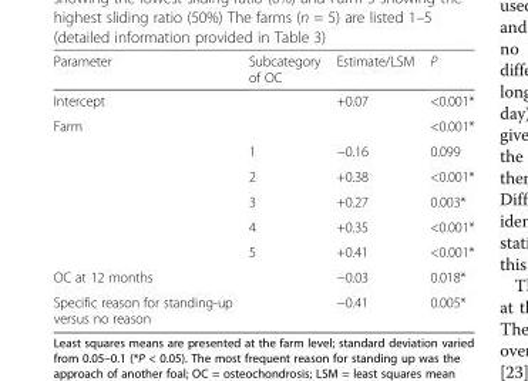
<table><thead><tr><td>Parameter</td><td>Subcategory of OC</td><td>Estimate/LSM</td><td>P</td></tr></thead><tbody><tr><td>Intercept</td><td></td><td>+0.07</td><td>&lt;0.001*</td></tr><tr><td rowspan="6">Farm</td><td></td><td></td><td>&lt;0.001*</td></tr><tr><td>1</td><td>−0.16</td><td>0.099</td></tr><tr><td>2</td><td>+0.38</td><td>&lt;0.001*</td></tr><tr><td>3</td><td>+0.27</td><td>0.003*</td></tr><tr><td>4</td><td>+0.35</td><td>&lt;0.001*</td></tr><tr><td>5</td><td>+0.41</td><td>&lt;0.001*</td></tr><tr><td>OC at 12 months</td><td></td><td>−0.03</td><td>0.018*</td></tr><tr><td>Specific reason for standing-up versus no reason</td><td></td><td>−0.41</td><td>0.005*</td></tr></tbody></table>